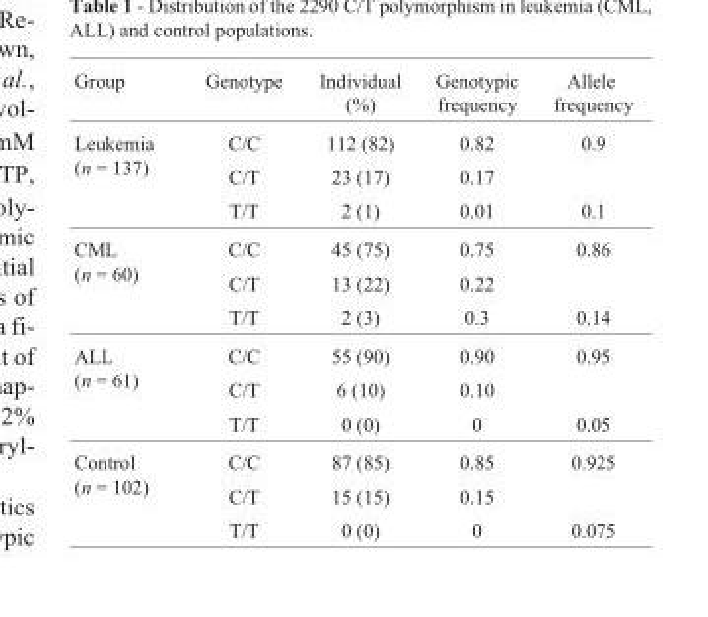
<table><thead><tr><td>Group</td><td>Genotype</td><td>Individual (%)</td><td>Genotypic frequency</td><td>Allele frequency</td></tr></thead><tbody><tr><td rowspan="3">Leukemia (n = 137)</td><td>C/C</td><td>112 (82)</td><td>0.82</td><td>0.9</td></tr><tr><td>C/T</td><td>23 (17)</td><td>0.17</td><td></td></tr><tr><td>T/T</td><td>2 (1)</td><td>0.01</td><td>0.1</td></tr><tr><td rowspan="3">CML (n = 60)</td><td>C/C</td><td>45 (75)</td><td>0.75</td><td>0.86</td></tr><tr><td>C/T</td><td>13 (22)</td><td>0.22</td><td></td></tr><tr><td>T/T</td><td>2 (3)</td><td>0.3</td><td>0.14</td></tr><tr><td rowspan="3">ALL (n = 61)</td><td>C/C</td><td>55 (90)</td><td>0.90</td><td>0.95</td></tr><tr><td>C/T</td><td>6 (10)</td><td>0.10</td><td></td></tr><tr><td>T/T</td><td>0 (0)</td><td>0</td><td>0.05</td></tr><tr><td rowspan="3">Control (n = 102)</td><td>C/C</td><td>87 (85)</td><td>0.85</td><td>0.925</td></tr><tr><td>C/T</td><td>15 (15)</td><td>0.15</td><td></td></tr><tr><td>T/T</td><td>0 (0)</td><td>0</td><td>0.075</td></tr></tbody></table>